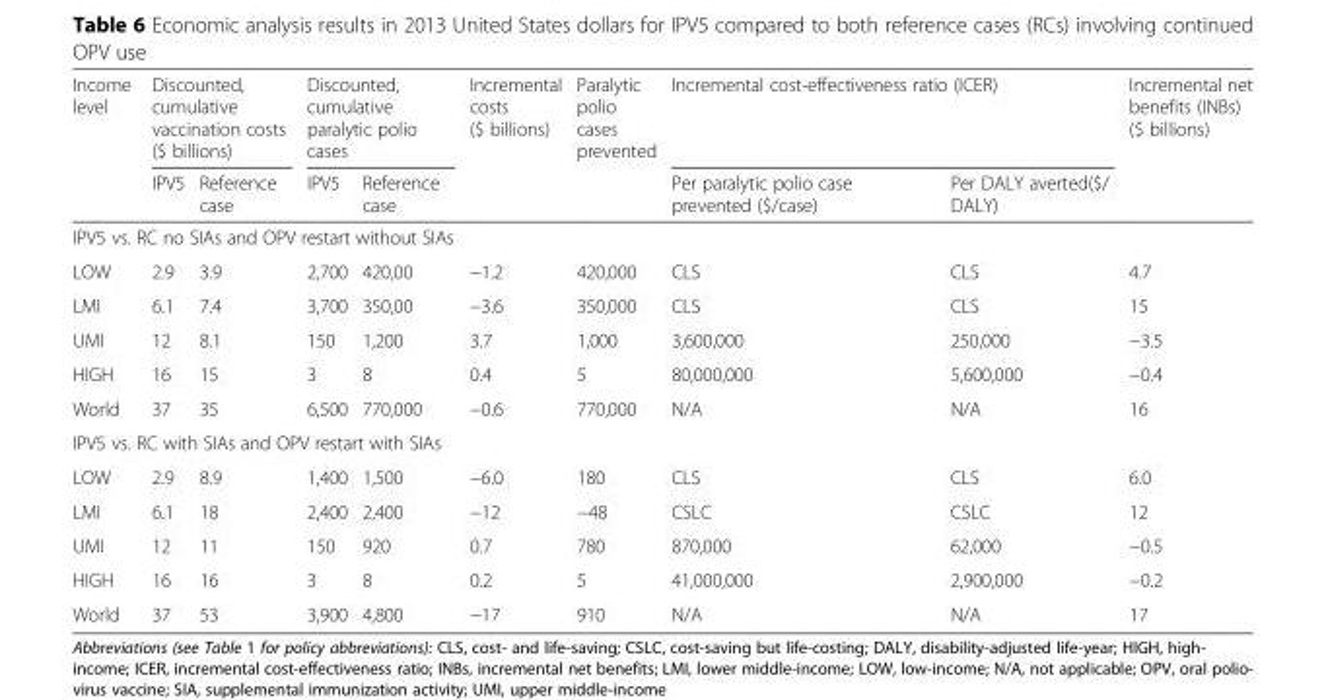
<table><thead><tr><td rowspan="2">Income level</td><td colspan="2">Discounted, cumulative vaccination costs ($ billions)</td><td colspan="2">Discounted, cumulative paralytic polio cases</td><td rowspan="2">Incremental costs ($ billions)</td><td rowspan="2">Paralytic polio cases prevented</td><td colspan="2">Incremental cost-effectiveness ratio (ICER)</td><td rowspan="2">Incremental net benefits (INBs) ($ billions)</td></tr><tr><td>IPV5</td><td>Reference case</td><td>IPV5</td><td>Reference case</td><td>Per paralytic polio case prevented ($/case)</td><td>Per DALY averted($/ DALY)</td></tr></thead><tbody><tr><td colspan="10">IPV5 vs. RC no SIAs and OPV restart without SIAs</td></tr><tr><td>LOW</td><td>2.9</td><td>3.9</td><td>2,700</td><td>420,00</td><td>−1.2</td><td>420,000</td><td>CLS</td><td>CLS</td><td>4.7</td></tr><tr><td>LMI</td><td>6.1</td><td>7.4</td><td>3,700</td><td>350,00</td><td>−3.6</td><td>350,000</td><td>CLS</td><td>CLS</td><td>15</td></tr><tr><td>UMI</td><td>12</td><td>8.1</td><td>150</td><td>1,200</td><td>3.7</td><td>1,000</td><td>3,600,000</td><td>250,000</td><td>−3.5</td></tr><tr><td>HIGH</td><td>16</td><td>15</td><td>3</td><td>8</td><td>0.4</td><td>5</td><td>80,000,000</td><td>5,600,000</td><td>−0.4</td></tr><tr><td>World</td><td>37</td><td>35</td><td>6,500</td><td>770,000</td><td>−0.6</td><td>770,000</td><td>N/A</td><td>N/A</td><td>16</td></tr><tr><td colspan="10">IPV5 vs. RC with SIAs and OPV restart with SIAs</td></tr><tr><td>LOW</td><td>2.9</td><td>8.9</td><td>1,400</td><td>1,500</td><td>−6.0</td><td>180</td><td>CLS</td><td>CLS</td><td>6.0</td></tr><tr><td>LMI</td><td>6.1</td><td>18</td><td>2,400</td><td>2,400</td><td>−12</td><td>−48</td><td>CSLC</td><td>CSLC</td><td>12</td></tr><tr><td>UMI</td><td>12</td><td>11</td><td>150</td><td>920</td><td>0.7</td><td>780</td><td>870,000</td><td>62,000</td><td>−0.5</td></tr><tr><td>HIGH</td><td>16</td><td>16</td><td>3</td><td>8</td><td>0.2</td><td>5</td><td>41,000,000</td><td>2,900,000</td><td>−0.2</td></tr><tr><td>World</td><td>37</td><td>53</td><td>3,900</td><td>4,800</td><td>−17</td><td>910</td><td>N/A</td><td>N/A</td><td>17</td></tr></tbody></table>